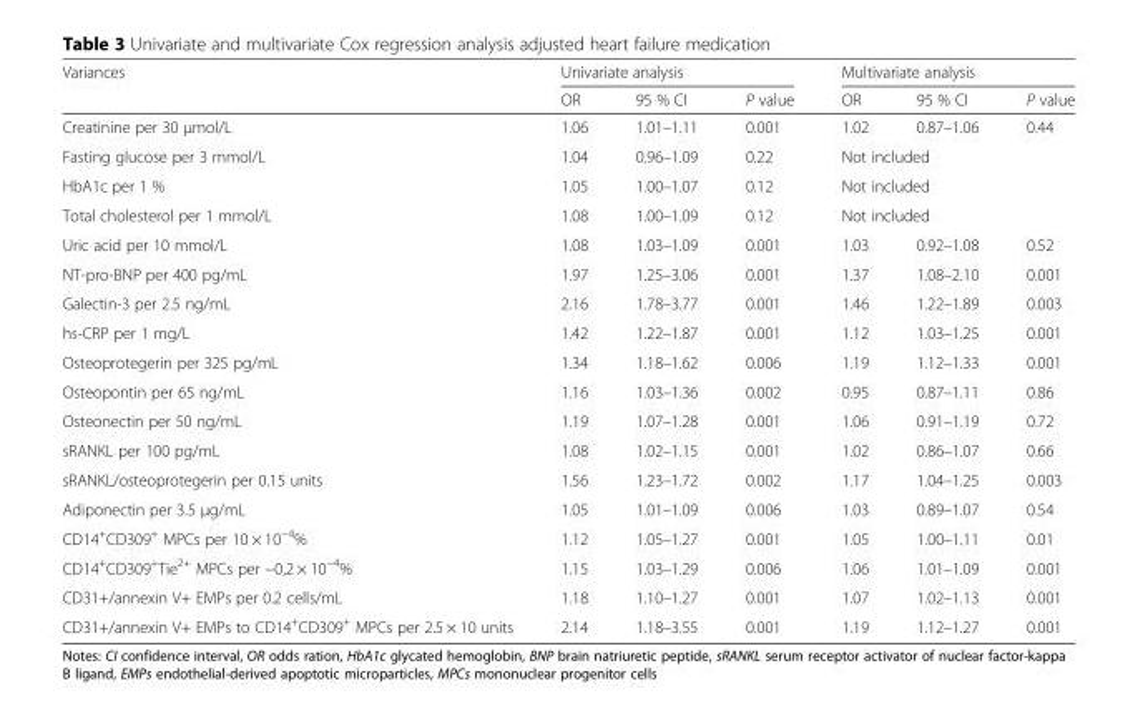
<table><thead><tr><td rowspan="2">Variances</td><td colspan="3">Univariate analysis</td><td colspan="3">Multivariate analysis</td></tr><tr><td>OR</td><td>95 % CI</td><td>Р value</td><td>OR</td><td>95 % CI</td><td>Р value</td></tr></thead><tbody><tr><td>Creatinine per 30 μmol/L</td><td>1.06</td><td>1.01–1.11</td><td>0.001</td><td>1.02</td><td>0.87–1.06</td><td>0.44</td></tr><tr><td>Fasting glucose per 3 mmol/L</td><td>1.04</td><td>0.96–1.09</td><td>0.22</td><td colspan="3">Not included</td></tr><tr><td>HbA1c per 1 %</td><td>1.05</td><td>1.00–1.07</td><td>0.12</td><td colspan="3">Not included</td></tr><tr><td>Total cholesterol per 1 mmol/L</td><td>1.08</td><td>1.00–1.09</td><td>0.12</td><td colspan="3">Not included</td></tr><tr><td>Uric acid per 10 mmol/L</td><td>1.08</td><td>1.03–1.09</td><td>0.001</td><td>1.03</td><td>0.92–1.08</td><td>0.52</td></tr><tr><td>NT-pro-BNP per 400 pg/mL</td><td>1.97</td><td>1.25–3.06</td><td>0.001</td><td>1.37</td><td>1.08–2.10</td><td>0.001</td></tr><tr><td>Galectin-3 per 2.5 ng/mL</td><td>2.16</td><td>1.78–3.77</td><td>0.001</td><td>1.46</td><td>1.22–1.89</td><td>0.003</td></tr><tr><td>hs-CRP per 1 mg/L</td><td>1.42</td><td>1.22–1.87</td><td>0.001</td><td>1.12</td><td>1.03–1.25</td><td>0.001</td></tr><tr><td>Osteoprotegerin per 325 pg/mL</td><td>1.34</td><td>1.18–1.62</td><td>0.006</td><td>1.19</td><td>1.12–1.33</td><td>0.001</td></tr><tr><td>Osteopontin per 65 ng/mL</td><td>1.16</td><td>1.03–1.36</td><td>0.002</td><td>0.95</td><td>0.87–1.11</td><td>0.86</td></tr><tr><td>Osteonectin per 50 ng/mL</td><td>1.19</td><td>1.07–1.28</td><td>0.001</td><td>1.06</td><td>0.91–1.19</td><td>0.72</td></tr><tr><td>sRANKL per 100 pg/mL</td><td>1.08</td><td>1.02–1.15</td><td>0.001</td><td>1.02</td><td>0.86–1.07</td><td>0.66</td></tr><tr><td>sRANKL/osteoprotegerin per 0.15 units</td><td>1.56</td><td>1.23–1.72</td><td>0.002</td><td>1.17</td><td>1.04–1.25</td><td>0.003</td></tr><tr><td>Adiponectin per 3.5 μg/mL</td><td>1.05</td><td>1.01–1.09</td><td>0.006</td><td>1.03</td><td>0.89–1.07</td><td>0.54</td></tr><tr><td>CD14+CD309+ MPCs per 10 × 10−4%</td><td>1.12</td><td>1.05–1.27</td><td>0.001</td><td>1.05</td><td>1.00–1.11</td><td>0.01</td></tr><tr><td>CD14+CD309+Tie2+ MPCs per −0,2 × 10−4%</td><td>1.15</td><td>1.03–1.29</td><td>0.006</td><td>1.06</td><td>1.01–1.09</td><td>0.001</td></tr><tr><td>CD31+/annexin V+ EMPs per 0.2 cells/mL</td><td>1.18</td><td>1.10–1.27</td><td>0.001</td><td>1.07</td><td>1.02–1.13</td><td>0.001</td></tr><tr><td>CD31+/annexin V+ EMPs to CD14+CD309+ MPCs per 2.5 × 10 units</td><td>2.14</td><td>1.18–3.55</td><td>0.001</td><td>1.19</td><td>1.12–1.27</td><td>0.001</td></tr></tbody></table>